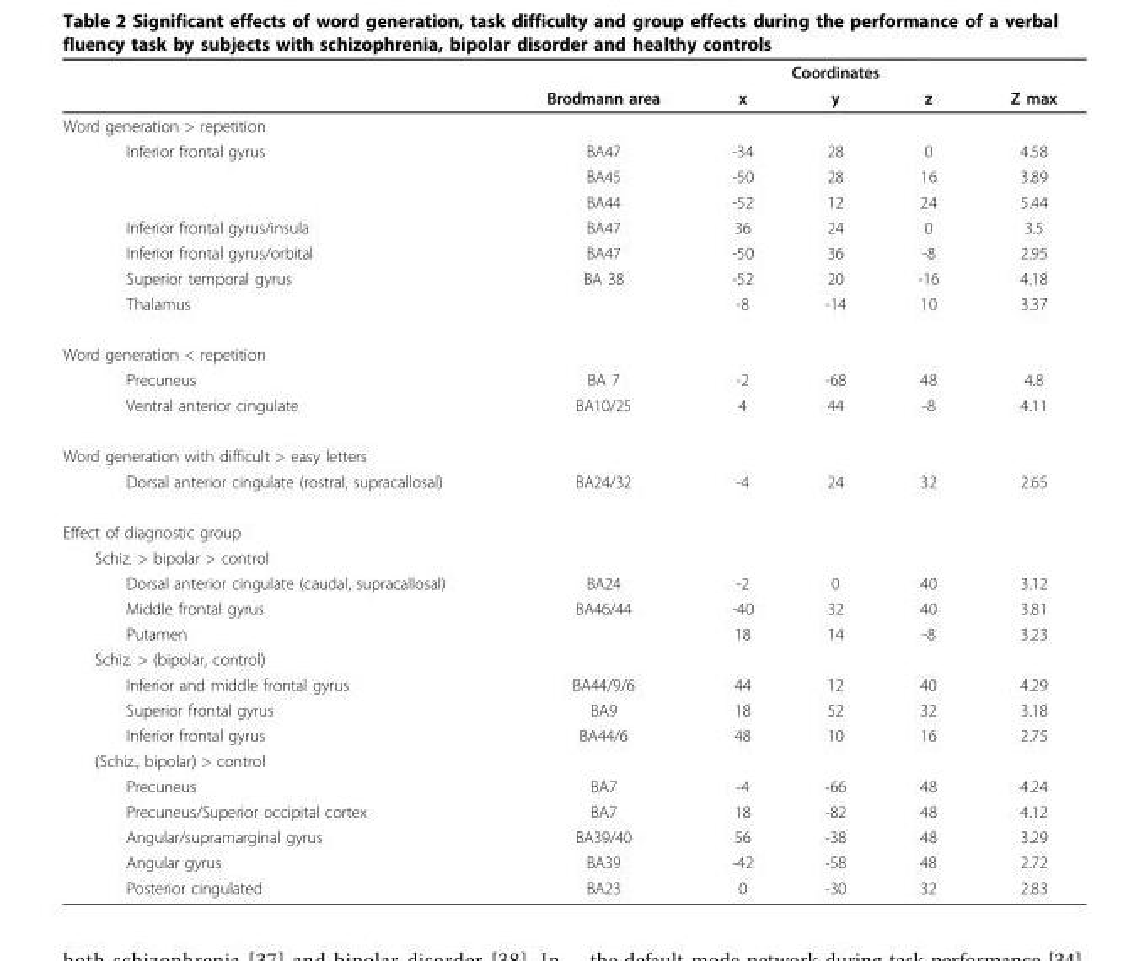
<table><thead><tr><td rowspan="2"></td><td rowspan="2">Brodmann area</td><td colspan="3">Coordinates</td><td rowspan="2">Z max</td></tr><tr><td>x</td><td>y</td><td>z</td></tr></thead><tbody><tr><td colspan="6">Word generation &gt; repetition</td></tr><tr><td rowspan="3">Inferior frontal gyrus</td><td>BA47</td><td>-34</td><td>28</td><td>0</td><td>4.58</td></tr><tr><td>BA45</td><td>-50</td><td>28</td><td>16</td><td>3.89</td></tr><tr><td>BA44</td><td>-52</td><td>12</td><td>24</td><td>5.44</td></tr><tr><td>Inferior frontal gyrus/insula</td><td>BA47</td><td>36</td><td>24</td><td>0</td><td>3.5</td></tr><tr><td>Inferior frontal gyrus/orbital</td><td>BA47</td><td>-50</td><td>36</td><td>-8</td><td>2.95</td></tr><tr><td>Superior temporal gyrus</td><td>BA 38</td><td>-52</td><td>20</td><td>-16</td><td>4.18</td></tr><tr><td>Thalamus</td><td></td><td>-8</td><td>-14</td><td>10</td><td>3.37</td></tr><tr><td colspan="6">Word generation &lt; repetition</td></tr><tr><td>Precuneus</td><td>BA 7</td><td>-2</td><td>-68</td><td>48</td><td>4.8</td></tr><tr><td>Ventral anterior cingulate</td><td>BA10/25</td><td>4</td><td>44</td><td>-8</td><td>4.11</td></tr><tr><td colspan="6">Word generation with difficult &gt; easy letters</td></tr><tr><td>Dorsal anterior cingulate (rostral, supracallosal)</td><td>BA24/32</td><td>-4</td><td>24</td><td>32</td><td>2.65</td></tr><tr><td colspan="6">Effect of diagnostic group</td></tr><tr><td colspan="6">Schiz. &gt; bipolar &gt; control</td></tr><tr><td>Dorsal anterior cingulate (caudal, supracallosal)</td><td>BA24</td><td>-2</td><td>0</td><td>40</td><td>3.12</td></tr><tr><td>Middle frontal gyrus</td><td>BA46/44</td><td>-40</td><td>32</td><td>40</td><td>3.81</td></tr><tr><td>Putamen</td><td></td><td>18</td><td>14</td><td>-8</td><td>3.23</td></tr><tr><td colspan="6">Schiz. &gt; (bipolar, control)</td></tr><tr><td>Inferior and middle frontal gyrus</td><td>BA44/9/6</td><td>44</td><td>12</td><td>40</td><td>4.29</td></tr><tr><td>Superior frontal gyrus</td><td>BA9</td><td>18</td><td>52</td><td>32</td><td>3.18</td></tr><tr><td>Inferior frontal gyrus</td><td>BA44/6</td><td>48</td><td>10</td><td>16</td><td>2.75</td></tr><tr><td colspan="6">(Schiz., bipolar) &gt; control</td></tr><tr><td>Precuneus</td><td>BA7</td><td>-4</td><td>-66</td><td>48</td><td>4.24</td></tr><tr><td>Precuneus/Superior occipital cortex</td><td>BA7</td><td>18</td><td>-82</td><td>48</td><td>4.12</td></tr><tr><td>Angular/supramarginal gyrus</td><td>BA39/40</td><td>56</td><td>-38</td><td>48</td><td>3.29</td></tr><tr><td>Angular gyrus</td><td>BA39</td><td>-42</td><td>-58</td><td>48</td><td>2.72</td></tr><tr><td>Posterior cingulated</td><td>BA23</td><td>0</td><td>-30</td><td>32</td><td>2.83</td></tr></tbody></table>